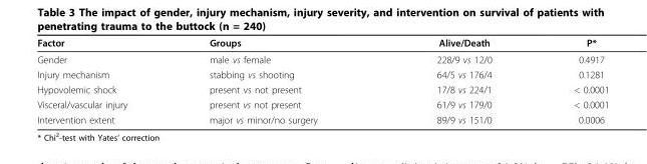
<table><thead><tr><td>Factor</td><td>Groups</td><td>Alive/Death</td><td>P*</td></tr></thead><tbody><tr><td>Gender</td><td>male vs female</td><td>228/9 vs 12/0</td><td>0.4917</td></tr><tr><td>Injury mechanism</td><td>stabbing vs shooting</td><td>64/5 vs 176/4</td><td>0.1281</td></tr><tr><td>Hypovolemic shock</td><td>present vs not present</td><td>17/8 vs 224/1</td><td>&lt; 0.0001</td></tr><tr><td>Visceral/vascular injury</td><td>present vs not present</td><td>61/9 vs 179/0</td><td>&lt; 0.0001</td></tr><tr><td>Intervention extent</td><td>major vs minor/no surgery</td><td>89/9 vs 151/0</td><td>0.0006</td></tr></tbody></table>